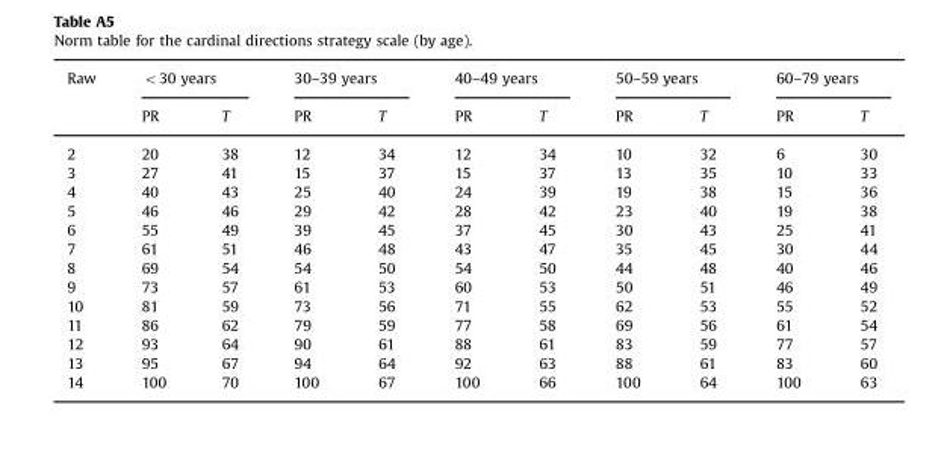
<table><thead><tr><td rowspan="2">Raw</td><td colspan="2">&lt;30 years</td><td colspan="2">30–39 years</td><td colspan="2">40–49 years</td><td colspan="2">50–59 years</td><td colspan="2">60–79 years</td></tr><tr><td>PR</td><td>T</td><td>PR</td><td>T</td><td>PR</td><td>T</td><td>PR</td><td>T</td><td>PR</td><td>T</td></tr></thead><tbody><tr><td>2</td><td>20</td><td>38</td><td>12</td><td>34</td><td>12</td><td>34</td><td>10</td><td>32</td><td>6</td><td>30</td></tr><tr><td>3</td><td>27</td><td>41</td><td>15</td><td>37</td><td>15</td><td>37</td><td>13</td><td>35</td><td>10</td><td>33</td></tr><tr><td>4</td><td>40</td><td>43</td><td>25</td><td>40</td><td>24</td><td>39</td><td>19</td><td>38</td><td>15</td><td>36</td></tr><tr><td>5</td><td>46</td><td>46</td><td>29</td><td>42</td><td>28</td><td>42</td><td>23</td><td>40</td><td>19</td><td>38</td></tr><tr><td>6</td><td>55</td><td>49</td><td>39</td><td>45</td><td>37</td><td>45</td><td>30</td><td>43</td><td>25</td><td>41</td></tr><tr><td>7</td><td>61</td><td>51</td><td>46</td><td>48</td><td>43</td><td>47</td><td>35</td><td>45</td><td>30</td><td>44</td></tr><tr><td>8</td><td>69</td><td>54</td><td>54</td><td>50</td><td>54</td><td>50</td><td>44</td><td>48</td><td>40</td><td>46</td></tr><tr><td>9</td><td>73</td><td>57</td><td>61</td><td>53</td><td>60</td><td>53</td><td>50</td><td>51</td><td>46</td><td>49</td></tr><tr><td>10</td><td>81</td><td>59</td><td>73</td><td>56</td><td>71</td><td>55</td><td>62</td><td>53</td><td>55</td><td>52</td></tr><tr><td>11</td><td>86</td><td>62</td><td>79</td><td>59</td><td>77</td><td>58</td><td>69</td><td>56</td><td>61</td><td>54</td></tr><tr><td>12</td><td>93</td><td>64</td><td>90</td><td>61</td><td>88</td><td>61</td><td>83</td><td>59</td><td>77</td><td>57</td></tr><tr><td>13</td><td>95</td><td>67</td><td>94</td><td>64</td><td>92</td><td>63</td><td>88</td><td>61</td><td>83</td><td>60</td></tr><tr><td>14</td><td>100</td><td>70</td><td>100</td><td>67</td><td>100</td><td>66</td><td>100</td><td>64</td><td>100</td><td>63</td></tr></tbody></table>